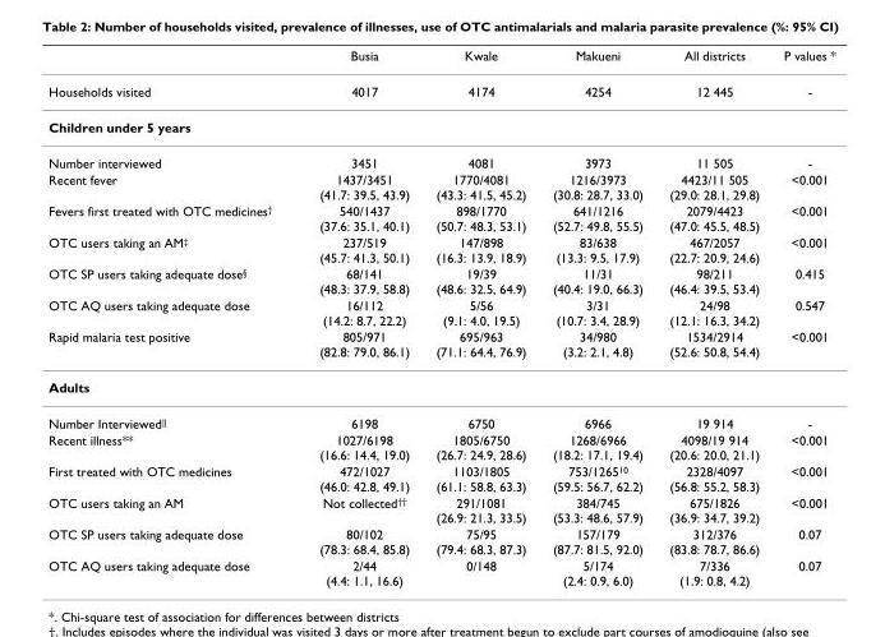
<table><thead><tr><td></td><td>Busia</td><td>Kwale</td><td>Makueni</td><td>All districts</td><td>P values *</td></tr></thead><tbody><tr><td>Households visited</td><td>4017</td><td>4174</td><td>4254</td><td>12 445</td><td>-</td></tr><tr><td colspan="6">Children under 5 years</td></tr><tr><td>Number interviewed</td><td>3451</td><td>4081</td><td>3973</td><td>11 505</td><td>-</td></tr><tr><td>Recent fever</td><td>1437/3451 (41.7: 39.5, 43.9)</td><td>1770/4081 (43.3: 41.5, 45.2)</td><td>1216/3973 (30.8: 28.7, 33.0)</td><td>4423/11 505 (29.0: 28.1, 29.8)</td><td>&lt;0.001</td></tr><tr><td>Fevers first treated with OTC medicines<sup>†</sup></td><td>540/1437 (37.6: 35.1, 40.1)</td><td>898/1770 (50.7: 48.3, 53.1)</td><td>641/1216 (52.7: 49.8, 55.5)</td><td>2079/4423 (47.0: 45.5, 48.5)</td><td>&lt;0.001</td></tr><tr><td>OTC users taking an AM<sup>‡</sup></td><td>237/519 (45.7: 41.3, 50.1)</td><td>147/898 (16.3: 13.9, 18.9)</td><td>83/638 (13.3: 9.5, 17.9)</td><td>467/2057 (22.7: 20.9, 24.6)</td><td>&lt;0.001</td></tr><tr><td>OTC SP users taking adequate dose<sup>§</sup></td><td>68/141 (48.3: 37.9, 58.8)</td><td>19/39 (48.6: 32.5, 64.9)</td><td>11/31 (40.4: 19.0, 66.3)</td><td>98/211 (46.4: 39.5, 53.4)</td><td>0.415</td></tr><tr><td>OTC AQ users taking adequate dose</td><td>16/112 (14.2: 8.7, 22.2)</td><td>5/56 (9.1: 4.0, 19.5)</td><td>3/31 (10.7: 3.4, 28.9)</td><td>24/98 (12.1: 16.3, 34.2)</td><td>0.547</td></tr><tr><td>Rapid malaria test positive</td><td>805/971 (82.8: 79.0, 86.1)</td><td>695/963 (71.1: 64.4, 76.9)</td><td>34/980 (3.2: 2.1, 4.8)</td><td>1534/2914 (52.6: 50.8, 54.4)</td><td>&lt;0.001</td></tr><tr><td colspan="6">Adults</td></tr><tr><td>Number Interviewed||</td><td>6198</td><td>6750</td><td>6966</td><td>19 914</td><td>-</td></tr><tr><td>Recent illness**</td><td>1027/6198 (16.6: 14.4, 19.0)</td><td>1805/6750 (26.7: 24.9, 28.6)</td><td>1268/6966 (18.2: 17.1, 19.4)</td><td>4098/19 914 (20.6: 20.0, 21.1)</td><td>&lt;0.001</td></tr><tr><td>First treated with OTC medicines</td><td>472/1027 (46.0: 42.8, 49.1)</td><td>1103/1805 (61.1: 58.8, 63.3)</td><td>753/1265<sup>10</sup> (59.5: 56.7, 62.2)</td><td>2328/4097 (56.8: 55.2, 58.3)</td><td>&lt;0.001</td></tr><tr><td>OTC users taking an AM</td><td>Not collected<sup>††</sup></td><td>291/1081 (26.9: 21.3, 33.5)</td><td>384/745 (53.3: 48.6, 57.9)</td><td>675/1826 (36.9: 34.7, 39.2)</td><td>&lt;0.001</td></tr><tr><td>OTC SP users taking adequate dose</td><td>80/102 (78.3: 68.4, 85.8)</td><td>75/95 (79.4: 68.3, 87.3)</td><td>157/179 (87.7: 81.5, 92.0)</td><td>312/376 (83.8: 78.7, 86.6)</td><td>0.07</td></tr><tr><td>OTC AQ users taking adequate dose</td><td>2/44 (4.4: 1.1, 16.6)</td><td>0/148</td><td>5/174 (2.4: 0.9, 6.0)</td><td>7/336 (1.9: 0.8, 4.2)</td><td>0.07</td></tr></tbody></table>